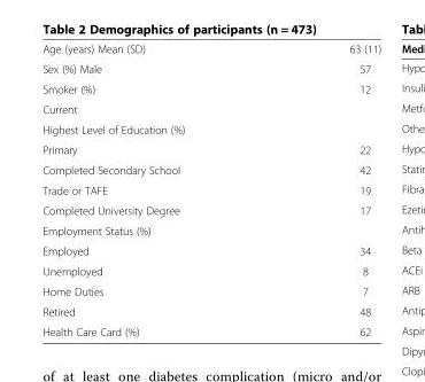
<table><tbody><tr><td>Age (years) Mean (SD)</td><td>63 (11)</td></tr><tr><td>Sex (%) Male</td><td>57</td></tr><tr><td>Smoker (%)</td><td rowspan="2">12</td></tr><tr><td>Current</td></tr><tr><td colspan="2">Highest Level of Education (%)</td></tr><tr><td>Primary</td><td>22</td></tr><tr><td>Completed Secondary School</td><td>42</td></tr><tr><td>Trade or TAFE</td><td>19</td></tr><tr><td>Completed University Degree</td><td>17</td></tr><tr><td colspan="2">Employment Status (%)</td></tr><tr><td>Employed</td><td>34</td></tr><tr><td>Unemployed</td><td>8</td></tr><tr><td>Home Duties</td><td>7</td></tr><tr><td>Retired</td><td>48</td></tr><tr><td>Health Care Card (%)</td><td>62</td></tr></tbody></table>